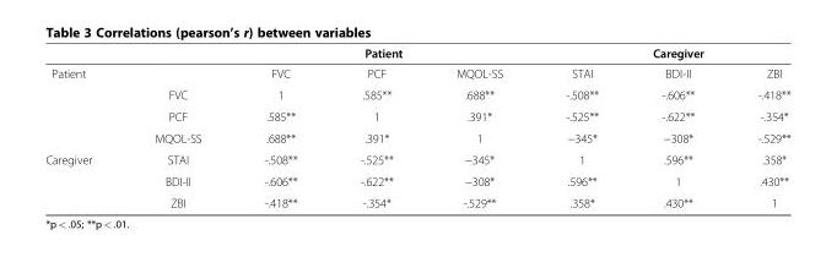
<table><thead><tr><td></td><td></td><td></td><td>Patient</td><td></td><td></td><td>Caregiver</td><td></td></tr></thead><tbody><tr><td rowspan="4">Patient</td><td></td><td>FVC</td><td>PCF</td><td>MQOL-SS</td><td>STAI</td><td>BDI-II</td><td>ZBI</td></tr><tr><td>FVC</td><td>1</td><td>.585**</td><td>.688**</td><td>-.508**</td><td>-.606**</td><td>-.418**</td></tr><tr><td>PCF</td><td>.585**</td><td>1</td><td>.391*</td><td>-.525**</td><td>-.622**</td><td>-.354*</td></tr><tr><td>MQOL-SS</td><td>.688**</td><td>.391*</td><td>1</td><td>−345*</td><td>−308*</td><td>-.529**</td></tr><tr><td rowspan="3">Caregiver</td><td>STAI</td><td>-.508**</td><td>-.525**</td><td>−345*</td><td>1</td><td>.596**</td><td>.358*</td></tr><tr><td>BDI-II</td><td>-.606**</td><td>-.622**</td><td>−308*</td><td>.596**</td><td>1</td><td>.430**</td></tr><tr><td>ZBI</td><td>-.418**</td><td>-.354*</td><td>-.529**</td><td>.358*</td><td>.430**</td><td>1</td></tr></tbody></table>